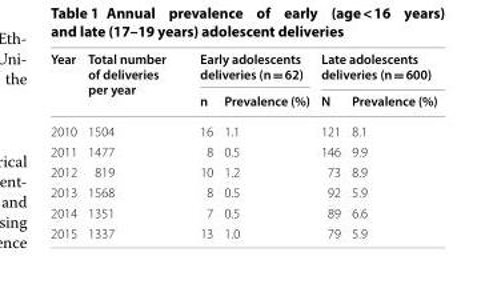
<table><thead><tr><td rowspan="2">Year</td><td rowspan="2">Total number of deliveries per year</td><td colspan="2">Early adolescents deliveries (n = 62)</td><td colspan="2">Late adolescents deliveries (n = 600)</td></tr><tr><td>n</td><td>Prevalence (%)</td><td>N</td><td>Prevalence (%)</td></tr></thead><tbody><tr><td>2010</td><td>1504</td><td>16</td><td>1.1</td><td>121</td><td>8.1</td></tr><tr><td>2011</td><td>1477</td><td>8</td><td>0.5</td><td>146</td><td>9.9</td></tr><tr><td>2012</td><td>819</td><td>10</td><td>1.2</td><td>73</td><td>8.9</td></tr><tr><td>2013</td><td>1568</td><td>8</td><td>0.5</td><td>92</td><td>5.9</td></tr><tr><td>2014</td><td>1351</td><td>7</td><td>0.5</td><td>89</td><td>6.6</td></tr><tr><td>2015</td><td>1337</td><td>13</td><td>1.0</td><td>79</td><td>5.9</td></tr></tbody></table>